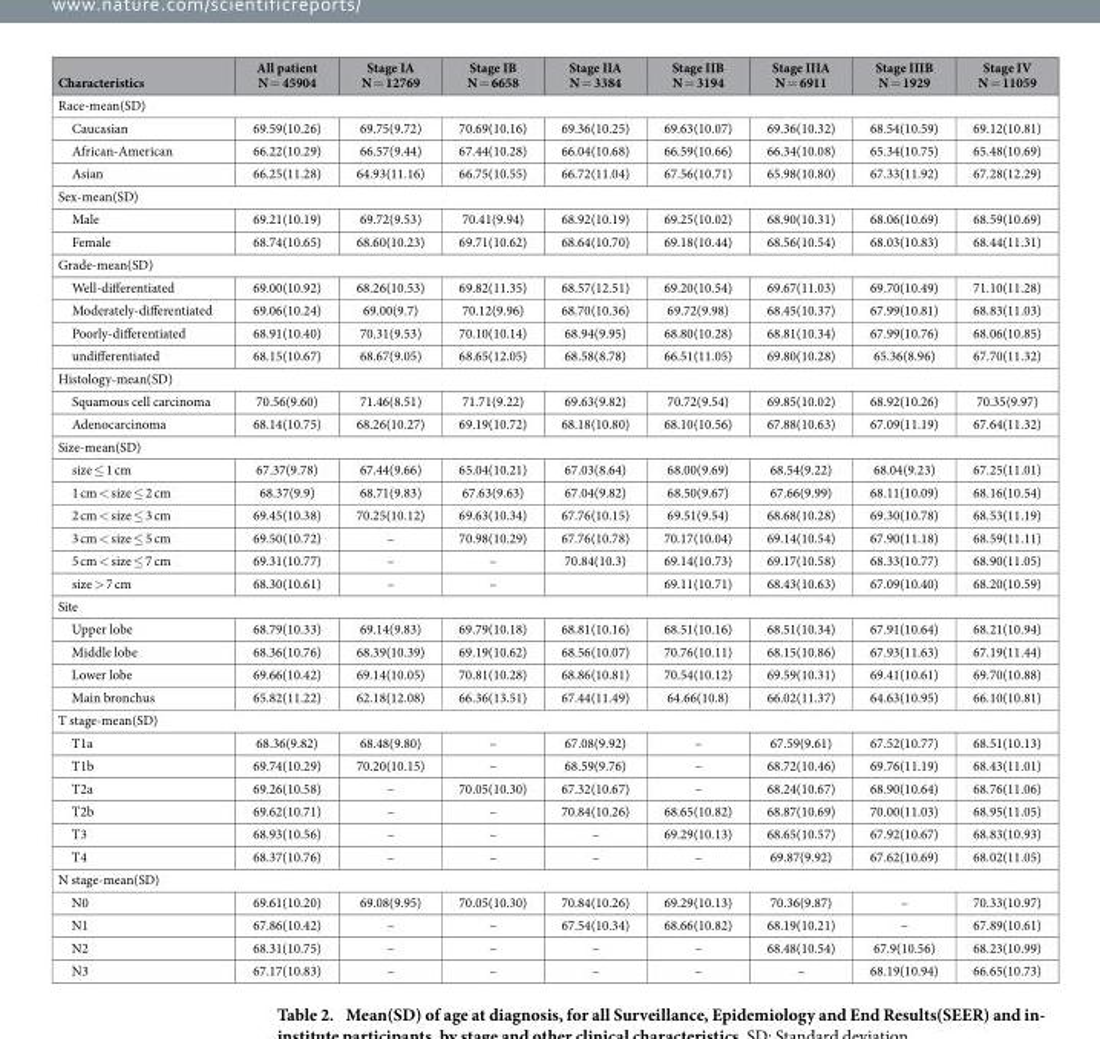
<table><thead><tr><td>Characteristics</td><td>All patient N = 45904</td><td>Stage IA N = 12769</td><td>Stage IB N = 6658</td><td>Stage IIA N = 3384</td><td>Stage IIB N = 3194</td><td>Stage IIIA N = 6911</td><td>Stage IIIB N = 1929</td><td>Stage IV N = 11059</td></tr></thead><tbody><tr><td colspan="9">Race-mean(SD)</td></tr><tr><td>Caucasian</td><td>69.59(10.26)</td><td>69.75(9.72)</td><td>70.69(10.16)</td><td>69.36(10.25)</td><td>69.63(10.07)</td><td>69.36(10.32)</td><td>68.54(10.59)</td><td>69.12(10.81)</td></tr><tr><td>African-American</td><td>66.22(10.29)</td><td>66.57(9.44)</td><td>67.44(10.28)</td><td>66.04(10.68)</td><td>66.59(10.66)</td><td>66.34(10.08)</td><td>65.34(10.75)</td><td>65.48(10.69)</td></tr><tr><td>Asian</td><td>66.25(11.28)</td><td>64.93(11.16)</td><td>66.75(10.55)</td><td>66.72(11.04)</td><td>67.56(10.71)</td><td>65.98(10.80)</td><td>67.33(11.92)</td><td>67.28(12.29)</td></tr><tr><td colspan="9">Sex-mean(SD)</td></tr><tr><td>Male</td><td>69.21(10.19)</td><td>69.72(9.53)</td><td>70.41(9.94)</td><td>68.92(10.19)</td><td>69.25(10.02)</td><td>68.90(10.31)</td><td>68.06(10.69)</td><td>68.59(10.69)</td></tr><tr><td>Female</td><td>68.74(10.65)</td><td>68.60(10.23)</td><td>69.71(10.62)</td><td>68.64(10.70)</td><td>69.18(10.44)</td><td>68.56(10.54)</td><td>68.03(10.83)</td><td>68.44(11.31)</td></tr><tr><td colspan="9">Grade-mean(SD)</td></tr><tr><td>Well-differentiated</td><td>69.00(10.92)</td><td>68.26(10.53)</td><td>69.82(11.35)</td><td>68.57(12.51)</td><td>69.20(10.54)</td><td>69.67(11.03)</td><td>69.70(10.49)</td><td>71.10(11.28)</td></tr><tr><td>Moderately-differentiated</td><td>69.06(10.24)</td><td>69.00(9.7)</td><td>70.12(9.96)</td><td>68.70(10.36)</td><td>69.72(9.98)</td><td>68.45(10.37)</td><td>67.99(10.81)</td><td>68.83(11.03)</td></tr><tr><td>Poorly-differentiated</td><td>68.91(10.40)</td><td>70.31(9.53)</td><td>70.10(10.14)</td><td>68.94(9.95)</td><td>68.80(10.28)</td><td>68.81(10.34)</td><td>67.99(10.76)</td><td>68.06(10.85)</td></tr><tr><td>undifferentiated</td><td>68.15(10.67)</td><td>68.67(9.05)</td><td>68.65(12.05)</td><td>68.58(8.78)</td><td>66.51(11.05)</td><td>69.80(10.28)</td><td>65.36(8.96)</td><td>67.70(11.32)</td></tr><tr><td colspan="9">Histology-mean(SD)</td></tr><tr><td>Squamous cell carcinoma</td><td>70.56(9.60)</td><td>71.46(8.51)</td><td>71.71(9.22)</td><td>69.63(9.82)</td><td>70.72(9.54)</td><td>69.85(10.02)</td><td>68.92(10.26)</td><td>70.35(9.97)</td></tr><tr><td>Adenocarcinoma</td><td>68.14(10.75)</td><td>68.26(10.27)</td><td>69.19(10.72)</td><td>68.18(10.80)</td><td>68.10(10.56)</td><td>67.88(10.63)</td><td>67.09(11.19)</td><td>67.64(11.32)</td></tr><tr><td colspan="9">Size-mean(SD)</td></tr><tr><td>size ≤ 1 cm</td><td>67.37(9.78)</td><td>67.44(9.66)</td><td>65.04(10.21)</td><td>67.03(8.64)</td><td>68.00(9.69)</td><td>68.54(9.22)</td><td>68.04(9.23)</td><td>67.25(11.01)</td></tr><tr><td>1 cm &lt; size ≤ 2 cm</td><td>68.37(9.9)</td><td>68.71(9.83)</td><td>67.63(9.63)</td><td>67.04(9.82)</td><td>68.50(9.67)</td><td>67.66(9.99)</td><td>68.11(10.09)</td><td>68.16(10.54)</td></tr><tr><td>2 cm &lt; size ≤ 3 cm</td><td>69.45(10.38)</td><td>70.25(10.12)</td><td>69.63(10.34)</td><td>67.76(10.15)</td><td>69.51(9.54)</td><td>68.68(10.28)</td><td>69.30(10.78)</td><td>68.53(11.19)</td></tr><tr><td>3 cm &lt; size ≤ 5 cm</td><td>69.50(10.72)</td><td>–</td><td>70.98(10.29)</td><td>67.76(10.78)</td><td>70.17(10.04)</td><td>69.14(10.54)</td><td>67.90(11.18)</td><td>68.59(11.11)</td></tr><tr><td>5 cm &lt; size ≤ 7 cm</td><td>69.31(10.77)</td><td>–</td><td>–</td><td>70.84(10.3)</td><td>69.14(10.73)</td><td>69.17(10.58)</td><td>68.33(10.77)</td><td>68.90(11.05)</td></tr><tr><td>size &gt; 7 cm</td><td>68.30(10.61)</td><td>–</td><td>–</td><td></td><td>69.11(10.71)</td><td>68.43(10.63)</td><td>67.09(10.40)</td><td>68.20(10.59)</td></tr><tr><td colspan="9">Site</td></tr><tr><td>Upper lobe</td><td>68.79(10.33)</td><td>69.14(9.83)</td><td>69.79(10.18)</td><td>68.81(10.16)</td><td>68.51(10.16)</td><td>68.51(10.34)</td><td>67.91(10.64)</td><td>68.21(10.94)</td></tr><tr><td>Middle lobe</td><td>68.36(10.76)</td><td>68.39(10.39)</td><td>69.19(10.62)</td><td>68.56(10.07)</td><td>70.76(10.11)</td><td>68.15(10.86)</td><td>67.93(11.63)</td><td>67.19(11.44)</td></tr><tr><td>Lower lobe</td><td>69.66(10.42)</td><td>69.14(10.05)</td><td>70.81(10.28)</td><td>68.86(10.81)</td><td>70.54(10.12)</td><td>69.59(10.31)</td><td>69.41(10.61)</td><td>69.70(10.88)</td></tr><tr><td>Main bronchus</td><td>65.82(11.22)</td><td>62.18(12.08)</td><td>66.36(13.51)</td><td>67.44(11.49)</td><td>64.66(10.8)</td><td>66.02(11.37)</td><td>64.63(10.95)</td><td>66.10(10.81)</td></tr><tr><td colspan="9">T stage-mean(SD)</td></tr><tr><td>T1a</td><td>68.36(9.82)</td><td>68.48(9.80)</td><td>–</td><td>67.08(9.92)</td><td>–</td><td>67.59(9.61)</td><td>67.52(10.77)</td><td>68.51(10.13)</td></tr><tr><td>T1b</td><td>69.74(10.29)</td><td>70.20(10.15)</td><td>–</td><td>68.59(9.76)</td><td>–</td><td>68.72(10.46)</td><td>69.76(11.19)</td><td>68.43(11.01)</td></tr><tr><td>T2a</td><td>69.26(10.58)</td><td>–</td><td>70.05(10.30)</td><td>67.32(10.67)</td><td>–</td><td>68.24(10.67)</td><td>68.90(10.64)</td><td>68.76(11.06)</td></tr><tr><td>T2b</td><td>69.62(10.71)</td><td>–</td><td>–</td><td>70.84(10.26)</td><td>68.65(10.82)</td><td>68.87(10.69)</td><td>70.00(11.03)</td><td>68.95(11.05)</td></tr><tr><td>T3</td><td>68.93(10.56)</td><td>–</td><td>–</td><td>–</td><td>69.29(10.13)</td><td>68.65(10.57)</td><td>67.92(10.67)</td><td>68.83(10.93)</td></tr><tr><td>T4</td><td>68.37(10.76)</td><td>–</td><td>–</td><td>–</td><td>–</td><td>69.87(9.92)</td><td>67.62(10.69)</td><td>68.02(11.05)</td></tr><tr><td colspan="9">N stage-mean(SD)</td></tr><tr><td>N0</td><td>69.61(10.20)</td><td>69.08(9.95)</td><td>70.05(10.30)</td><td>70.84(10.26)</td><td>69.29(10.13)</td><td>70.36(9.87)</td><td>–</td><td>70.33(10.97)</td></tr><tr><td>N1</td><td>67.86(10.42)</td><td>–</td><td>–</td><td>67.54(10.34)</td><td>68.66(10.82)</td><td>68.19(10.21)</td><td>–</td><td>67.89(10.61)</td></tr><tr><td>N2</td><td>68.31(10.75)</td><td>–</td><td>–</td><td>–</td><td>–</td><td>68.48(10.54)</td><td>67.9(10.56)</td><td>68.23(10.99)</td></tr><tr><td>N3</td><td>67.17(10.83)</td><td>–</td><td>–</td><td>–</td><td>–</td><td>–</td><td>68.19(10.94)</td><td>66.65(10.73)</td></tr></tbody></table>